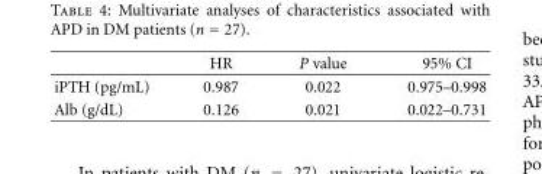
<table><thead><tr><td></td><td>HR</td><td>P value</td><td>95% CI</td></tr></thead><tbody><tr><td>iPTH (pg/mL)</td><td>0.987</td><td>0.022</td><td>0.975–0.998</td></tr><tr><td>Alb (g/dL)</td><td>0.126</td><td>0.021</td><td>0.022–0.731</td></tr></tbody></table>